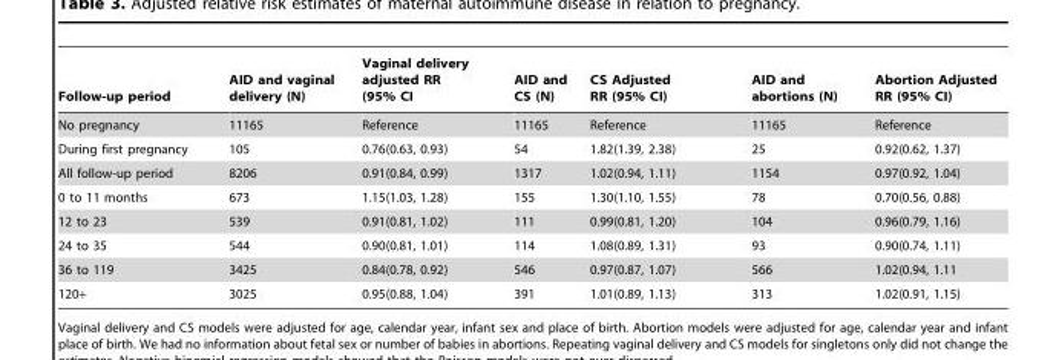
<table><thead><tr><td>Follow-up period</td><td>AID and vaginal delivery (N)</td><td>Vaginal delivery adjusted RR (95% CI</td><td>AID and CS (N)</td><td>CS Adjusted RR (95% CI)</td><td>AID and abortions (N)</td><td>Abortion Adjusted RR (95% CI)</td></tr></thead><tbody><tr><td>No pregnancy</td><td>11165</td><td>Reference</td><td>11165</td><td>Reference</td><td>11165</td><td>Reference</td></tr><tr><td>During first pregnancy</td><td>105</td><td>0.76(0.63, 0.93)</td><td>54</td><td>1.82(1.39, 2.38)</td><td>25</td><td>0.92(0.62, 1.37)</td></tr><tr><td>All follow-up period</td><td>8206</td><td>0.91(0.84, 0.99)</td><td>1317</td><td>1.02(0.94, 1.11)</td><td>1154</td><td>0.97(0.92, 1.04)</td></tr><tr><td>0 to 11 months</td><td>673</td><td>1.15(1.03, 1.28)</td><td>155</td><td>1.30(1.10, 1.55)</td><td>78</td><td>0.70(0.56, 0.88)</td></tr><tr><td>12 to 23</td><td>539</td><td>0.91(0.81, 1.02)</td><td>111</td><td>0.99(0.81, 1.20)</td><td>104</td><td>0.96(0.79, 1.16)</td></tr><tr><td>24 to 35</td><td>544</td><td>0.90(0.81, 1.01)</td><td>114</td><td>1.08(0.89, 1.31)</td><td>93</td><td>0.90(0.74, 1.11)</td></tr><tr><td>36 to 119</td><td>3425</td><td>0.84(0.78, 0.92)</td><td>546</td><td>0.97(0.87, 1.07)</td><td>566</td><td>1.02(0.94, 1.11</td></tr><tr><td>120+</td><td>3025</td><td>0.95(0.88, 1.04)</td><td>391</td><td>1.01(0.89, 1.13)</td><td>313</td><td>1.02(0.91, 1.15)</td></tr></tbody></table>